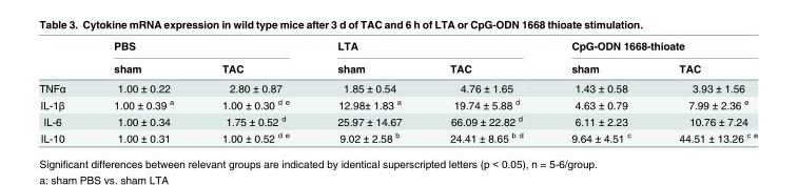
<table><thead><tr><td rowspan="2"></td><td colspan="2">PBS</td><td colspan="2">LTA</td><td colspan="2">CpG-ODN 1668-thioate</td></tr><tr><td>sham</td><td>TAC</td><td>sham</td><td>TAC</td><td>sham</td><td>TAC</td></tr></thead><tbody><tr><td>TNFα</td><td>1.00 ± 0.22</td><td>2.80 ± 0.87</td><td>1.85 ± 0.54</td><td>4.76 ± 1.65</td><td>1.43 ± 0.58</td><td>3.93 ± 1.56</td></tr><tr><td>IL-1β</td><td>1.00 ± 0.39 <sup>a</sup></td><td>1.00 ± 0.30 <sup>d e</sup></td><td>12.98± 1.83 <sup>a</sup></td><td>19.74 ± 5.88 <sup>d</sup></td><td>4.63 ± 0.79</td><td>7.99 ± 2.36 <sup>e</sup></td></tr><tr><td>IL-6</td><td>1.00 ± 0.34</td><td>1.75 ± 0.52 <sup>d</sup></td><td>25.97 ± 14.67</td><td>66.09 ± 22.82 <sup>d</sup></td><td>6.11 ± 2.23</td><td>10.76 ± 7.24</td></tr><tr><td>IL-10</td><td>1.00 ± 0.31</td><td>1.00 ± 0.52 <sup>d e</sup></td><td>9.02 ± 2.58 <sup>b</sup></td><td>24.41 ± 8.65 <sup>b d</sup></td><td>9.64 ± 4.51 <sup>c</sup></td><td>44.51 ± 13.26 <sup>c e</sup></td></tr></tbody></table>